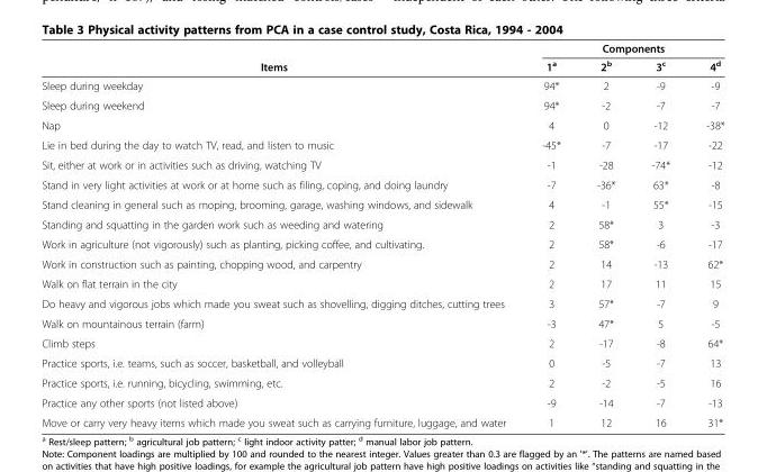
<table><thead><tr><td rowspan="2">Items</td><td colspan="4">Components</td></tr><tr><td>1<sup>a</sup></td><td>2<sup>b</sup></td><td>3<sup>c</sup></td><td>4<sup>d</sup></td></tr></thead><tbody><tr><td>Sleep during weekday</td><td>94*</td><td>2</td><td>-9</td><td>-9</td></tr><tr><td>Sleep during weekend</td><td>94*</td><td>-2</td><td>-7</td><td>-7</td></tr><tr><td>Nap</td><td>4</td><td>0</td><td>-12</td><td>-38*</td></tr><tr><td>Lie in bed during the day to watch TV, read, and listen to music</td><td>-45*</td><td>-7</td><td>-17</td><td>-22</td></tr><tr><td>Sit, either at work or in activities such as driving, watching TV</td><td>-1</td><td>-28</td><td>-74*</td><td>-12</td></tr><tr><td>Stand in very light activities at work or at home such as filing, coping, and doing laundry</td><td>-7</td><td>-36*</td><td>63*</td><td>-8</td></tr><tr><td>Stand cleaning in general such as moping, brooming, garage, washing windows, and sidewalk</td><td>4</td><td>-1</td><td>55*</td><td>-15</td></tr><tr><td>Standing and squatting in the garden work such as weeding and watering</td><td>2</td><td>58*</td><td>3</td><td>-3</td></tr><tr><td>Work in agriculture (not vigorously) such as planting, picking coffee, and cultivating.</td><td>2</td><td>58*</td><td>-6</td><td>-17</td></tr><tr><td>Work in construction such as painting, chopping wood, and carpentry</td><td>2</td><td>14</td><td>-13</td><td>62*</td></tr><tr><td>Walk on flat terrain in the city</td><td>2</td><td>17</td><td>11</td><td>15</td></tr><tr><td>Do heavy and vigorous jobs which made you sweat such as shovelling, digging ditches, cutting trees</td><td>3</td><td>57*</td><td>-7</td><td>9</td></tr><tr><td>Walk on mountainous terrain (farm)</td><td>-3</td><td>47*</td><td>5</td><td>-5</td></tr><tr><td>Climb steps</td><td>2</td><td>-17</td><td>-8</td><td>64*</td></tr><tr><td>Practice sports, i.e. teams, such as soccer, basketball, and volleyball</td><td>0</td><td>-5</td><td>-7</td><td>13</td></tr><tr><td>Practice sports, i.e. running, bicycling, swimming, etc.</td><td>2</td><td>-2</td><td>-5</td><td>16</td></tr><tr><td>Practice any other sports (not listed above)</td><td>-9</td><td>-14</td><td>-7</td><td>-13</td></tr><tr><td>Move or carry very heavy items which made you sweat such as carrying furniture, luggage, and water</td><td>1</td><td>12</td><td>16</td><td>31*</td></tr></tbody></table>